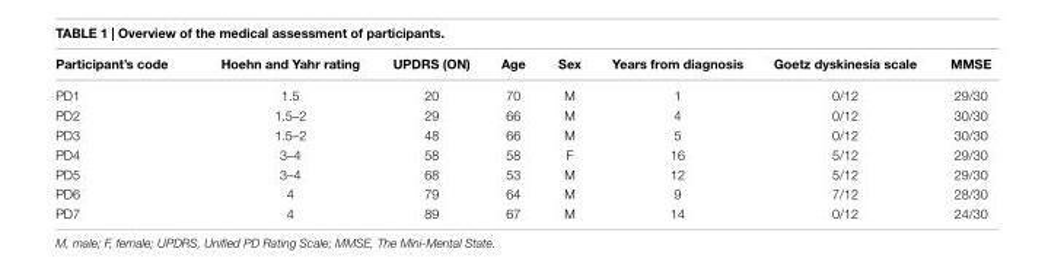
<table><thead><tr><td>Participant’s code</td><td>hoehn and Yahr rating</td><td>UPDrs (On)</td><td>age</td><td>sex</td><td>Years from diagnosis</td><td>goetz dyskinesia scale</td><td>MMse</td></tr></thead><tbody><tr><td>PD1</td><td>1.5</td><td>20</td><td>70</td><td>M</td><td>1</td><td>0/12</td><td>29/30</td></tr><tr><td>PD2</td><td>1.5–2</td><td>29</td><td>66</td><td>M</td><td>4</td><td>0/12</td><td>30/30</td></tr><tr><td>PD3</td><td>1.5–2</td><td>48</td><td>66</td><td>M</td><td>5</td><td>0/12</td><td>30/30</td></tr><tr><td>PD4</td><td>3–4</td><td>58</td><td>58</td><td>F</td><td>16</td><td>5/12</td><td>29/30</td></tr><tr><td>PD5</td><td>3–4</td><td>68</td><td>53</td><td>M</td><td>12</td><td>5/12</td><td>29/30</td></tr><tr><td>PD6</td><td>4</td><td>79</td><td>64</td><td>M</td><td>9</td><td>7/12</td><td>28/30</td></tr><tr><td>PD7</td><td>4</td><td>89</td><td>67</td><td>M</td><td>14</td><td>0/12</td><td>24/30</td></tr></tbody></table>